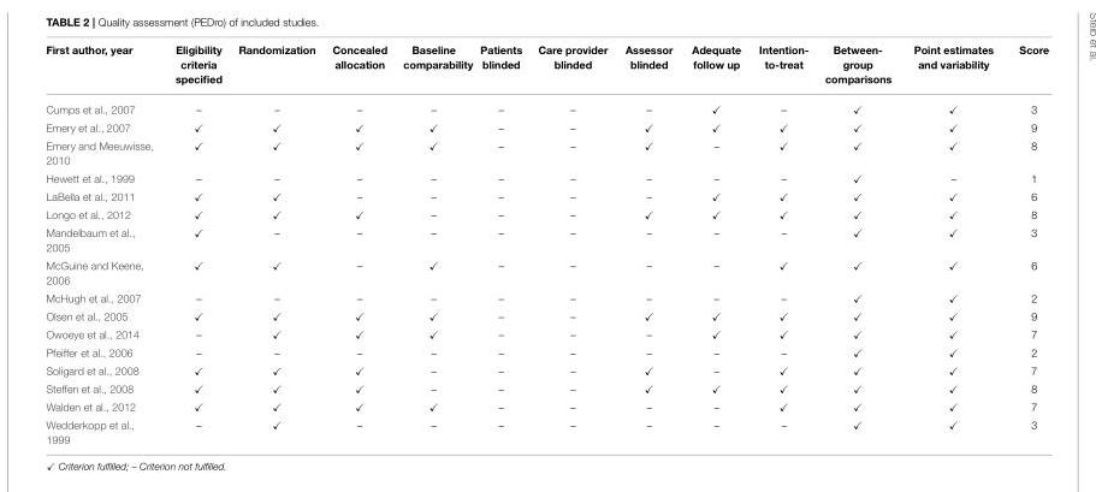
<table><thead><tr><td>First author, year</td><td>Eligibility criteria specified</td><td>Randomization</td><td>Concealed allocation</td><td>Baseline comparability</td><td>Patients blinded</td><td>Care provider blinded</td><td>Assessor blinded</td><td>Adequate follow up</td><td>Intention- to-treat</td><td>Between- group comparisons</td><td>Point estimates and variability</td><td>Score</td></tr></thead><tbody><tr><td>Cumps et al., 2007</td><td>–</td><td>–</td><td>–</td><td>–</td><td>–</td><td>–</td><td>–</td><td>✓</td><td>–</td><td>✓</td><td>✓</td><td>3</td></tr><tr><td>Emery et al., 2007</td><td>✓</td><td>✓</td><td>✓</td><td>✓</td><td>–</td><td>–</td><td>✓</td><td>✓</td><td>✓</td><td>✓</td><td>✓</td><td>9</td></tr><tr><td>Emery and Meeuwisse, 2010</td><td>✓</td><td>✓</td><td>✓</td><td>✓</td><td>–</td><td>–</td><td>✓</td><td>–</td><td>✓</td><td>✓</td><td>✓</td><td>8</td></tr><tr><td>Hewett et al., 1999</td><td>–</td><td>–</td><td>–</td><td>–</td><td>–</td><td>–</td><td>–</td><td>–</td><td>–</td><td>✓</td><td>–</td><td>1</td></tr><tr><td>LaBella et al., 2011</td><td>✓</td><td>✓</td><td>–</td><td>–</td><td>–</td><td>–</td><td>–</td><td>✓</td><td>✓</td><td>✓</td><td>✓</td><td>6</td></tr><tr><td>Longo et al., 2012</td><td>✓</td><td>✓</td><td>✓</td><td>–</td><td>–</td><td>–</td><td>✓</td><td>✓</td><td>✓</td><td>✓</td><td>✓</td><td>8</td></tr><tr><td>Mandelbaum et al., 2005</td><td>✓</td><td>–</td><td>–</td><td>–</td><td>–</td><td>–</td><td>–</td><td>–</td><td>–</td><td>✓</td><td>✓</td><td>3</td></tr><tr><td>McGuine and Keene, 2006</td><td>✓</td><td>✓</td><td>–</td><td>✓</td><td>–</td><td>–</td><td>–</td><td>–</td><td>✓</td><td>✓</td><td>✓</td><td>6</td></tr><tr><td>McHugh et al., 2007</td><td>–</td><td>–</td><td>–</td><td>–</td><td>–</td><td>–</td><td>–</td><td>–</td><td>–</td><td>✓</td><td>✓</td><td>2</td></tr><tr><td>Olsen et al., 2005</td><td>✓</td><td>✓</td><td>✓</td><td>✓</td><td>–</td><td>–</td><td>✓</td><td>✓</td><td>✓</td><td>✓</td><td>✓</td><td>9</td></tr><tr><td>Owoeye et al., 2014</td><td>–</td><td>✓</td><td>✓</td><td>✓</td><td>–</td><td>–</td><td>–</td><td>✓</td><td>✓</td><td>✓</td><td>✓</td><td>7</td></tr><tr><td>Pfeiffer et al., 2006</td><td>–</td><td>–</td><td>–</td><td>–</td><td>–</td><td>–</td><td>–</td><td>–</td><td>–</td><td>✓</td><td>✓</td><td>2</td></tr><tr><td>Soligard et al., 2008</td><td>✓</td><td>✓</td><td>✓</td><td>–</td><td>–</td><td>–</td><td>✓</td><td>–</td><td>✓</td><td>✓</td><td>✓</td><td>7</td></tr><tr><td>Steffen et al., 2008</td><td>✓</td><td>✓</td><td>✓</td><td>–</td><td>–</td><td>–</td><td>✓</td><td>✓</td><td>✓</td><td>✓</td><td>✓</td><td>8</td></tr><tr><td>Walden et al., 2012</td><td>✓</td><td>✓</td><td>✓</td><td>✓</td><td>–</td><td>–</td><td>–</td><td>–</td><td>✓</td><td>✓</td><td>✓</td><td>7</td></tr><tr><td>Wedderkopp et al., 1999</td><td>–</td><td>✓</td><td>–</td><td>–</td><td>–</td><td>–</td><td>–</td><td>–</td><td>–</td><td>✓</td><td>✓</td><td>3</td></tr></tbody></table>